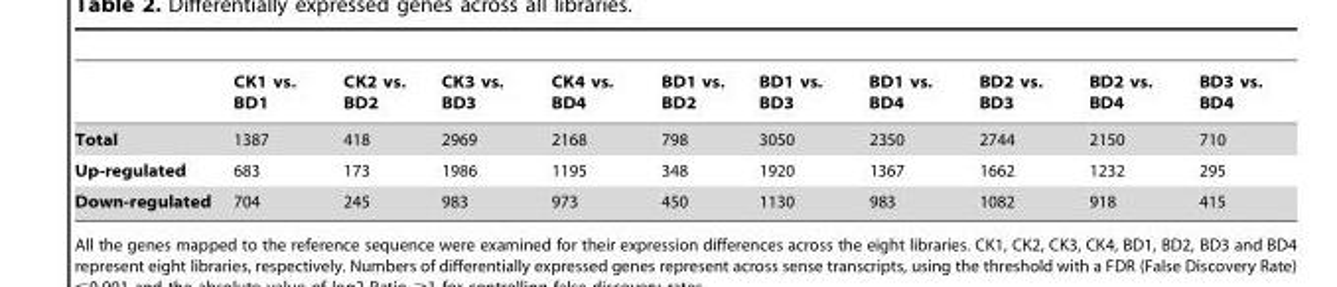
<table><thead><tr><td></td><td>CK1 vs. BD1</td><td>CK2 vs. BD2</td><td>CK3 vs. BD3</td><td>CK4 vs. BD4</td><td>BD1 vs. BD2</td><td>BD1 vs. BD3</td><td>BD1 vs. BD4</td><td>BD2 vs. BD3</td><td>BD2 vs. BD4</td><td>BD3 vs. BD4</td></tr></thead><tbody><tr><td>Total</td><td>1387</td><td>418</td><td>2969</td><td>2168</td><td>798</td><td>3050</td><td>2350</td><td>2744</td><td>2150</td><td>710</td></tr><tr><td>Up-regulated</td><td>683</td><td>173</td><td>1986</td><td>1195</td><td>348</td><td>1920</td><td>1367</td><td>1662</td><td>1232</td><td>295</td></tr><tr><td>Down-regulated</td><td>704</td><td>245</td><td>983</td><td>973</td><td>450</td><td>1130</td><td>983</td><td>1082</td><td>918</td><td>415</td></tr></tbody></table>